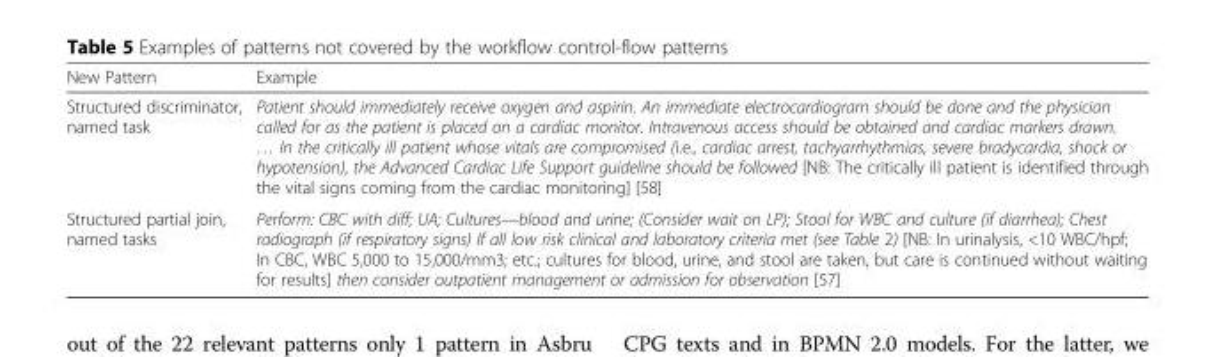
<table><thead><tr><td>New Pattern</td><td>Example</td></tr></thead><tbody><tr><td>Structured discriminator, named task</td><td>Patient should immediately receive oxygen and aspirin. An immediate electrocardiogram should be done and the physician called for as the patient is placed on a cardiac monitor. Intravenous access should be obtained and cardiac markers drawn. … In the critically ill patient whose vitals are compromised (i.e., cardiac arrest, tachyarrhythmias, severe bradycardia, shock or hypotension), the Advanced Cardiac Life Support guideline should be followed [NB: The critically ill patient is identified through the vital signs coming from the cardiac monitoring] [58]</td></tr><tr><td>Structured partial join, named tasks</td><td>Perform: CBC with diff; UA; Cultures—blood and urine; (Consider wait on LP); Stool for WBC and culture (if diarrhea); Chest radiograph (if respiratory signs) If all low risk clinical and laboratory criteria met (see Table 2) [NB: In urinalysis, &lt;10 WBC/hpf; In CBC, WBC 5,000 to 15,000/mm3; etc.; cultures for blood, urine, and stool are taken, but care is continued without waiting for results] then consider outpatient management or admission for observation [57]</td></tr></tbody></table>